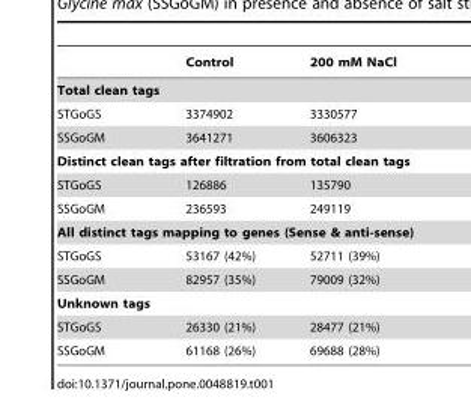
<table><thead><tr><td></td><td>Control</td><td>200 mM NaCl</td></tr></thead><tbody><tr><td colspan="3">Total clean tags</td></tr><tr><td>STGoGS</td><td>3374902</td><td>3330577</td></tr><tr><td>SSGoGM</td><td>3641271</td><td>3606323</td></tr><tr><td colspan="3">Distinct clean tags after filtration from total clean tags</td></tr><tr><td>STGoGS</td><td>126886</td><td>135790</td></tr><tr><td>SSGoGM</td><td>236593</td><td>249119</td></tr><tr><td colspan="3">All distinct tags mapping to genes (Sense &amp; anti-sense)</td></tr><tr><td>STGoGS</td><td>53167 (42%)</td><td>52711 (39%)</td></tr><tr><td>SSGoGM</td><td>82957 (35%)</td><td>79009 (32%)</td></tr><tr><td colspan="3">Unknown tags</td></tr><tr><td>STGoGS</td><td>26330 (21%)</td><td>28477 (21%)</td></tr><tr><td>SSGoGM</td><td>61168 (26%)</td><td>69688 (28%)</td></tr></tbody></table>